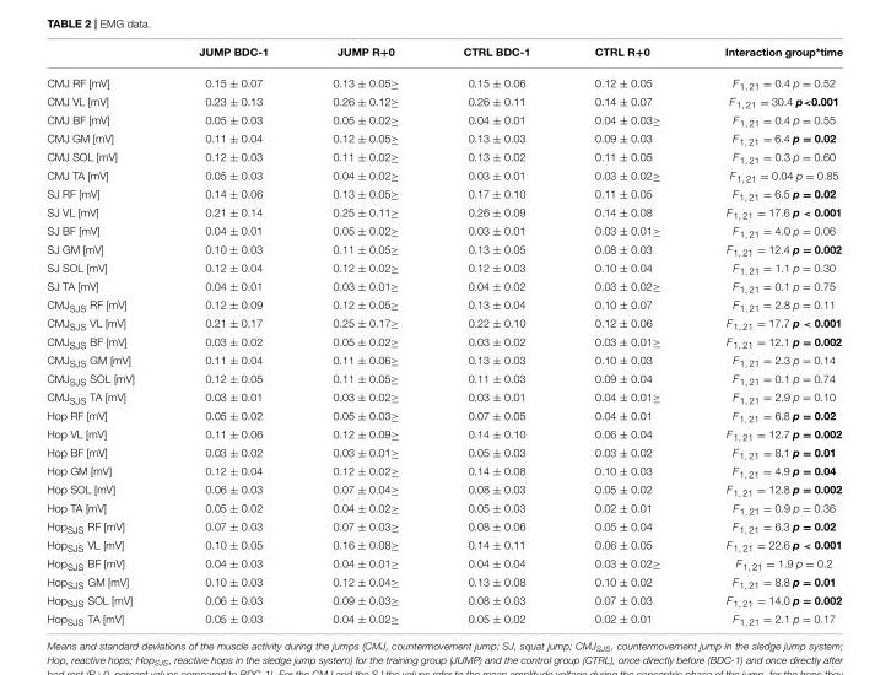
<table><thead><tr><td></td><td>JUMP BDC-1</td><td>JUMP R+0</td><td>CTRL BDC-1</td><td>CTRL R+0</td><td>Interaction group*time</td></tr></thead><tbody><tr><td>CMJ RF [mV]</td><td>0.15 ± 0.07</td><td>0.13 ± 0.05≥</td><td>0.15 ± 0.06</td><td>0.12 ± 0.05</td><td>F<sub>1, 21</sub> = 0.4 p = 0.52</td></tr><tr><td>CMJ VL [mV]</td><td>0.23 ± 0.13</td><td>0.26 ± 0.12≥</td><td>0.26 ± 0.11</td><td>0.14 ± 0.07</td><td>F<sub>1, 21</sub> = 30.4 p&lt;0.001</td></tr><tr><td>CMJ BF [mV]</td><td>0.05 ± 0.03</td><td>0.05 ± 0.02≥</td><td>0.04 ± 0.01</td><td>0.04 ± 0.03≥</td><td>F<sub>1, 21</sub> = 0.4 p = 0.55</td></tr><tr><td>CMJ GM [mV]</td><td>0.11 ± 0.04</td><td>0.12 ± 0.05≥</td><td>0.13 ± 0.03</td><td>0.09 ± 0.03</td><td>F<sub>1, 21</sub> = 6.4 p = 0.02</td></tr><tr><td>CMJ SOL [mV]</td><td>0.12 ± 0.03</td><td>0.11 ± 0.02≥</td><td>0.13 ± 0.02</td><td>0.11 ± 0.05</td><td>F<sub>1, 21</sub> = 0.3 p = 0.60</td></tr><tr><td>CMJ TA [mV]</td><td>0.05 ± 0.03</td><td>0.04 ± 0.02≥</td><td>0.03 ± 0.01</td><td>0.03 ± 0.02≥</td><td>F<sub>1, 21</sub> = 0.04 p = 0.85</td></tr><tr><td>SJ RF [mV]</td><td>0.14 ± 0.06</td><td>0.13 ± 0.05≥</td><td>0.17 ± 0.10</td><td>0.11 ± 0.05</td><td>F<sub>1, 21</sub> = 6.5 p = 0.02</td></tr><tr><td>SJ VL [mV]</td><td>0.21 ± 0.14</td><td>0.25 ± 0.11≥</td><td>0.26 ± 0.09</td><td>0.14 ± 0.08</td><td>F<sub>1, 21</sub> = 17.6 p &lt; 0.001</td></tr><tr><td>SJ BF [mV]</td><td>0.04 ± 0.01</td><td>0.05 ± 0.02≥</td><td>0.03 ± 0.01</td><td>0.03 ± 0.01≥</td><td>F<sub>1, 21</sub> = 4.0 p = 0.06</td></tr><tr><td>SJ GM [mV]</td><td>0.10 ± 0.03</td><td>0.11 ± 0.05≥</td><td>0.13 ± 0.05</td><td>0.08 ± 0.03</td><td>F<sub>1, 21</sub> = 12.4 p = 0.002</td></tr><tr><td>SJ SOL [mV]</td><td>0.12 ± 0.04</td><td>0.12 ± 0.02≥</td><td>0.12 ± 0.03</td><td>0.10 ± 0.04</td><td>F<sub>1, 21</sub> = 1.1 p = 0.30</td></tr><tr><td>SJ TA [mV]</td><td>0.04 ± 0.01</td><td>0.03 ± 0.01≥</td><td>0.04 ± 0.02</td><td>0.03 ± 0.02≥</td><td>F<sub>1, 21</sub> = 0.1 p = 0.75</td></tr><tr><td>CMJ<sub>SJS</sub> RF [mV]</td><td>0.12 ± 0.09</td><td>0.12 ± 0.05≥</td><td>0.13 ± 0.04</td><td>0.10 ± 0.07</td><td>F<sub>1, 21</sub> = 2.8 p = 0.11</td></tr><tr><td>CMJ<sub>SJS</sub> VL [mV]</td><td>0.21 ± 0.17</td><td>0.25 ± 0.17≥</td><td>0.22 ± 0.10</td><td>0.12 ± 0.06</td><td>F<sub>1, 21</sub> = 17.7 p &lt; 0.001</td></tr><tr><td>CMJ<sub>SJS</sub> BF [mV]</td><td>0.03 ± 0.02</td><td>0.05 ± 0.02≥</td><td>0.03 ± 0.02</td><td>0.03 ± 0.01≥</td><td>F<sub>1, 21</sub> = 12.1 p = 0.002</td></tr><tr><td>CMJ<sub>SJS</sub> GM [mV]</td><td>0.11 ± 0.04</td><td>0.11 ± 0.06≥</td><td>0.13 ± 0.03</td><td>0.10 ± 0.03</td><td>F<sub>1, 21</sub> = 2.3 p = 0.14</td></tr><tr><td>CMJ<sub>SJS</sub> SOL [mV]</td><td>0.12 ± 0.05</td><td>0.11 ± 0.05≥</td><td>0.11 ± 0.03</td><td>0.09 ± 0.04</td><td>F<sub>1, 21</sub> = 0.1 p = 0.74</td></tr><tr><td>CMJ<sub>SJS</sub> TA [mV]</td><td>0.03 ± 0.01</td><td>0.03 ± 0.02≥</td><td>0.03 ± 0.01</td><td>0.04 ± 0.01≥</td><td>F<sub>1, 21</sub> = 2.9 p = 0.10</td></tr><tr><td>Hop RF [mV]</td><td>0.05 ± 0.02</td><td>0.05 ± 0.03≥</td><td>0.07 ± 0.05</td><td>0.04 ± 0.01</td><td>F<sub>1, 21</sub> = 6.8 p = 0.02</td></tr><tr><td>Hop VL [mV]</td><td>0.11 ± 0.06</td><td>0.12 ± 0.09≥</td><td>0.14 ± 0.10</td><td>0.06 ± 0.04</td><td>F<sub>1, 21</sub> = 12.7 p = 0.002</td></tr><tr><td>Hop BF [mV]</td><td>0.03 ± 0.02</td><td>0.03 ± 0.01≥</td><td>0.05 ± 0.03</td><td>0.03 ± 0.02</td><td>F<sub>1, 21</sub> = 8.1 p = 0.01</td></tr><tr><td>Hop GM [mV]</td><td>0.12 ± 0.04</td><td>0.12 ± 0.02≥</td><td>0.14 ± 0.08</td><td>0.10 ± 0.03</td><td>F<sub>1, 21</sub> = 4.9 p = 0.04</td></tr><tr><td>Hop SOL [mV]</td><td>0.06 ± 0.03</td><td>0.07 ± 0.04≥</td><td>0.08 ± 0.03</td><td>0.05 ± 0.02</td><td>F<sub>1, 21</sub> = 12.8 p = 0.002</td></tr><tr><td>Hop TA [mV]</td><td>0.05 ± 0.02</td><td>0.04 ± 0.02≥</td><td>0.05 ± 0.03</td><td>0.02 ± 0.01</td><td>F<sub>1, 21</sub> = 0.9 p = 0.36</td></tr><tr><td>Hop<sub>SJS</sub> RF [mV]</td><td>0.07 ± 0.03</td><td>0.07 ± 0.03≥</td><td>0.08 ± 0.06</td><td>0.05 ± 0.04</td><td>F<sub>1, 21</sub> = 6.3 p = 0.02</td></tr><tr><td>Hop<sub>SJS</sub> VL [mV]</td><td>0.10 ± 0.05</td><td>0.16 ± 0.08≥</td><td>0.14 ± 0.11</td><td>0.06 ± 0.05</td><td>F<sub>1, 21</sub> = 22.6 p &lt; 0.001</td></tr><tr><td>Hop<sub>SJS</sub> BF [mV]</td><td>0.04 ± 0.03</td><td>0.04 ± 0.01≥</td><td>0.04 ± 0.04</td><td>0.03 ± 0.02≥</td><td>F<sub>1, 21</sub> = 1.9 p = 0.2</td></tr><tr><td>Hop<sub>SJS</sub> GM [mV]</td><td>0.10 ± 0.03</td><td>0.12 ± 0.04≥</td><td>0.13 ± 0.08</td><td>0.10 ± 0.02</td><td>F<sub>1, 21</sub> = 8.8 p = 0.01</td></tr><tr><td>Hop<sub>SJS</sub> SOL [mV]</td><td>0.06 ± 0.03</td><td>0.09 ± 0.03≥</td><td>0.08 ± 0.03</td><td>0.07 ± 0.03</td><td>F<sub>1, 21</sub> = 14.0 p = 0.002</td></tr><tr><td>Hop<sub>SJS</sub> TA [mV]</td><td>0.05 ± 0.03</td><td>0.04 ± 0.02≥</td><td>0.05 ± 0.02</td><td>0.02 ± 0.01</td><td>F<sub>1, 21</sub> = 2.1 p = 0.17</td></tr></tbody></table>